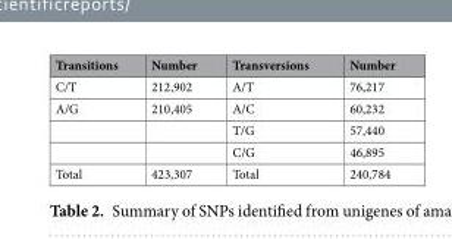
<table><thead><tr><td>Transitions</td><td>Number</td><td>Transversions</td><td>Number</td></tr></thead><tbody><tr><td>C/T</td><td>212,902</td><td>A/T</td><td>76,217</td></tr><tr><td rowspan="3">A/G</td><td>210,405</td><td>A/C</td><td>60,232</td></tr><tr><td></td><td>T/G</td><td>57,440</td></tr><tr><td></td><td>C/G</td><td>46,895</td></tr><tr><td>Total</td><td>423,307</td><td>Total</td><td>240,784</td></tr></tbody></table>